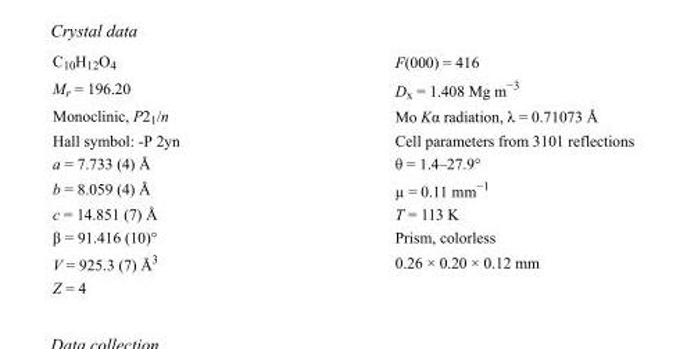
<table><tbody><tr><td>C<sub>10</sub>H<sub>12</sub>O<sub>4</sub></td><td>F(000) = 416</td></tr><tr><td>M<sub>r</sub> = 196.20</td><td>D<sub>x</sub> = 1.408 Mg m<sup>−3</sup></td></tr><tr><td>Monoclinic, P2<sub>1</sub>/n</td><td>Mo Kα radiation, λ = 0.71073 Å</td></tr><tr><td>Hall symbol: -P 2yn</td><td>Cell parameters from 3101 reflections</td></tr><tr><td>a = 7.733 (4) Å</td><td>θ = 1.4–27.9°</td></tr><tr><td>b = 8.059 (4) Å</td><td>µ = 0.11 mm<sup>−1</sup></td></tr><tr><td>c = 14.851 (7) Å</td><td>T = 113 K</td></tr><tr><td>β = 91.416 (10)°</td><td>Prism, colorless</td></tr><tr><td>V = 925.3 (7) Å<sup>3</sup></td><td>0.26 × 0.20 × 0.12 mm</td></tr><tr><td>Z = 4</td><td></td></tr></tbody></table>